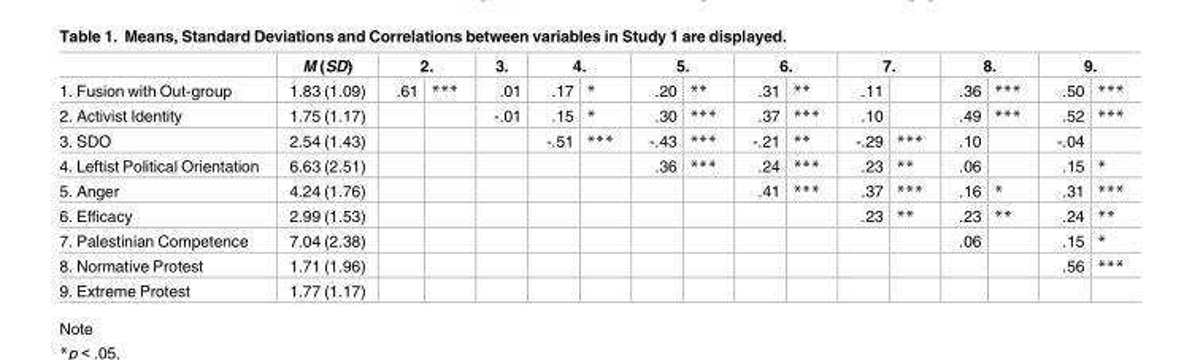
<table><thead><tr><td rowspan="2">1. Fusion with Out-group</td><td rowspan="2">M (SD) 1.83 (1.09)</td><td colspan="2">2.</td><td rowspan="2">3. .01</td><td colspan="2">4.</td><td colspan="2">5.</td><td colspan="2">6.</td><td colspan="2">7.</td><td colspan="2">8.</td><td colspan="2">9.</td></tr><tr><td>.61</td><td>***</td><td>.17</td><td>*</td><td>.20</td><td>**</td><td>.31</td><td>**</td><td>.11</td><td></td><td>.36</td><td>***</td><td>.50</td><td>***</td></tr></thead><tbody><tr><td>2. Activist Identity</td><td>1.75 (1.17)</td><td></td><td></td><td>-.01</td><td>.15</td><td>*</td><td>.30</td><td>***</td><td>.37</td><td>***</td><td>.10</td><td></td><td>.49</td><td>***</td><td>.52</td><td>***</td></tr><tr><td>3. SDO</td><td>2.54 (1.43)</td><td></td><td></td><td></td><td>-.51</td><td>***</td><td>-.43</td><td>***</td><td>-.21</td><td>**</td><td>-.29</td><td>***</td><td>.10</td><td></td><td>-.04</td><td></td></tr><tr><td>4. Leftist Political Orientation</td><td>6.63 (2.51)</td><td></td><td></td><td></td><td></td><td></td><td>.36</td><td>***</td><td>.24</td><td>***</td><td>.23</td><td>**</td><td>.06</td><td></td><td>.15</td><td>*</td></tr><tr><td>5. Anger</td><td>4.24 (1.76)</td><td></td><td></td><td></td><td></td><td></td><td></td><td></td><td>.41</td><td>***</td><td>.37</td><td>***</td><td>.16</td><td>*</td><td>.31</td><td>***</td></tr><tr><td>6. Efficacy</td><td>2.99 (1.53)</td><td></td><td></td><td></td><td></td><td></td><td></td><td></td><td></td><td></td><td>.23</td><td>**</td><td>.23</td><td>**</td><td>.24</td><td>**</td></tr><tr><td>7. Palestinian Competence</td><td>7.04 (2.38)</td><td></td><td></td><td></td><td></td><td></td><td></td><td></td><td></td><td></td><td></td><td></td><td>.06</td><td></td><td>.15</td><td>*</td></tr><tr><td>8. Normative Protest</td><td>1.71 (1.96)</td><td></td><td></td><td></td><td></td><td></td><td></td><td></td><td></td><td></td><td></td><td></td><td></td><td></td><td>.56</td><td>***</td></tr><tr><td>9. Extreme Protest</td><td>1.77 (1.17)</td><td></td><td></td><td></td><td></td><td></td><td></td><td></td><td></td><td></td><td></td><td></td><td></td><td></td><td></td><td></td></tr></tbody></table>